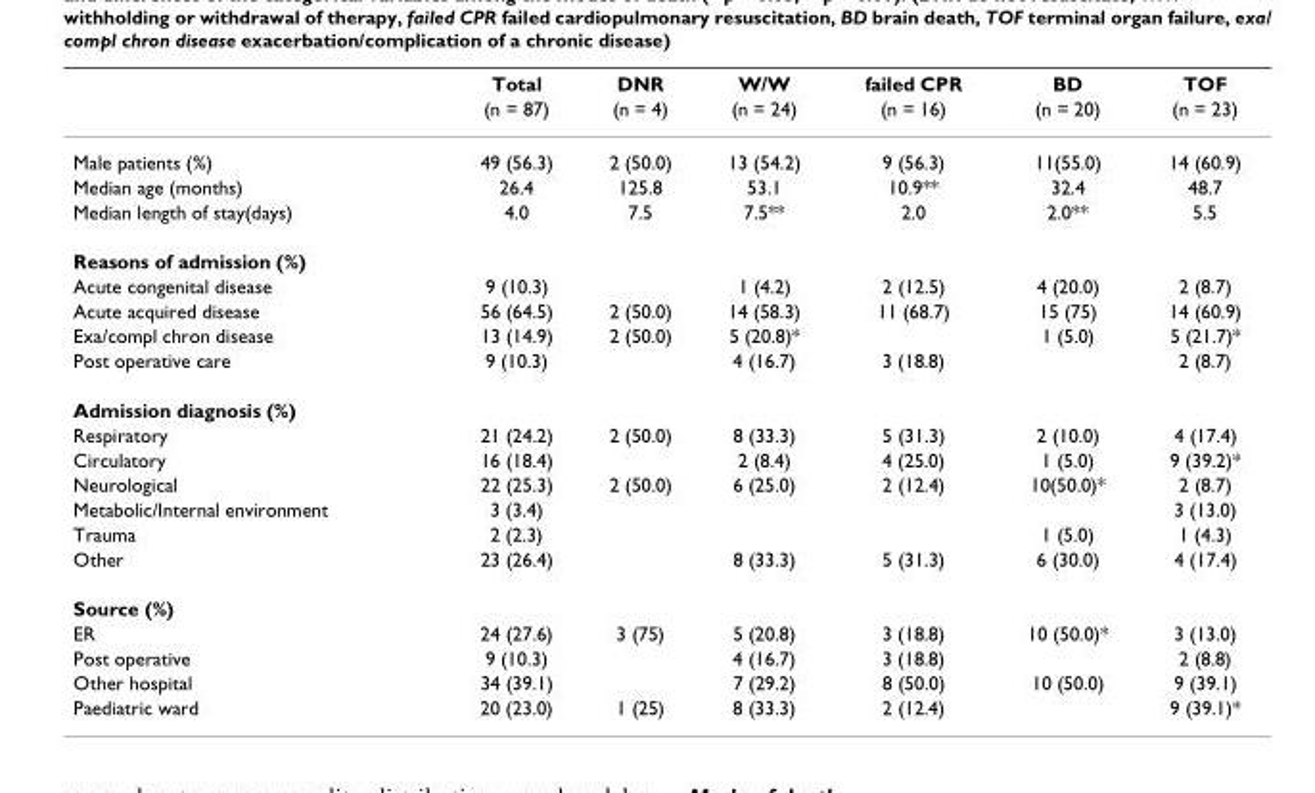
<table><thead><tr><td rowspan="2"></td><td rowspan="2">Total (n = 87)</td><td rowspan="2">DNR (n = 4)</td><td rowspan="2">W/W (n = 24)</td><td rowspan="2">failed CPR (n = 16)</td><td rowspan="2">BD (n = 20)</td><td rowspan="2">TOF (n = 23)</td></tr><tr></tr></thead><tbody><tr><td>Male patients (%)</td><td>49 (56.3)</td><td>2 (50.0)</td><td>13 (54.2)</td><td>9 (56.3)</td><td>11(55.0)</td><td>14 (60.9)</td></tr><tr><td>Median age (months)</td><td>26.4</td><td>125.8</td><td>53.1</td><td>10.9**</td><td>32.4</td><td>48.7</td></tr><tr><td>Median length of stay(days)</td><td>4.0</td><td>7.5</td><td>7.5**</td><td>2.0</td><td>2.0**</td><td>5.5</td></tr><tr><td colspan="7">Reasons of admission (%)</td></tr><tr><td>Acute congenital disease</td><td>9 (10.3)</td><td></td><td>1 (4.2)</td><td>2 (12.5)</td><td>4 (20.0)</td><td>2 (8.7)</td></tr><tr><td>Acute acquired disease</td><td>56 (64.5)</td><td>2 (50.0)</td><td>14 (58.3)</td><td>11 (68.7)</td><td>15 (75)</td><td>14 (60.9)</td></tr><tr><td>Exa/compl chron disease</td><td>13 (14.9)</td><td>2 (50.0)</td><td>5 (20.8)*</td><td></td><td>1 (5.0)</td><td>5 (21.7)*</td></tr><tr><td>Post operative care</td><td>9 (10.3)</td><td></td><td>4 (16.7)</td><td>3 (18.8)</td><td></td><td>2 (8.7)</td></tr><tr><td colspan="7">Admission diagnosis (%)</td></tr><tr><td>Respiratory</td><td>21 (24.2)</td><td>2 (50.0)</td><td>8 (33.3)</td><td>5 (31.3)</td><td>2 (10.0)</td><td>4 (17.4)</td></tr><tr><td>Circulatory</td><td>16 (18.4)</td><td></td><td>2 (8.4)</td><td>4 (25.0)</td><td>1 (5.0)</td><td>9 (39.2)*</td></tr><tr><td>Neurological</td><td>22 (25.3)</td><td>2 (50.0)</td><td>6 (25.0)</td><td>2 (12.4)</td><td>10(50.0)*</td><td>2 (8.7)</td></tr><tr><td>Metabolic/Internal environment</td><td>3 (3.4)</td><td></td><td></td><td></td><td></td><td>3 (13.0)</td></tr><tr><td>Trauma</td><td>2 (2.3)</td><td></td><td></td><td></td><td>1 (5.0)</td><td>1 (4.3)</td></tr><tr><td>Other</td><td>23 (26.4)</td><td></td><td>8 (33.3)</td><td>5 (31.3)</td><td>6 (30.0)</td><td>4 (17.4)</td></tr><tr><td colspan="7">Source (%)</td></tr><tr><td>ER</td><td>24 (27.6)</td><td>3 (75)</td><td>5 (20.8)</td><td>3 (18.8)</td><td>10 (50.0)*</td><td>3 (13.0)</td></tr><tr><td>Post operative</td><td>9 (10.3)</td><td></td><td>4 (16.7)</td><td>3 (18.8)</td><td></td><td>2 (8.8)</td></tr><tr><td>Other hospital</td><td>34 (39.1)</td><td></td><td>7 (29.2)</td><td>8 (50.0)</td><td>10 (50.0)</td><td>9 (39.1)</td></tr><tr><td>Paediatric ward</td><td>20 (23.0)</td><td>1 (25)</td><td>8 (33.3)</td><td>2 (12.4)</td><td></td><td>9 (39.1)*</td></tr></tbody></table>